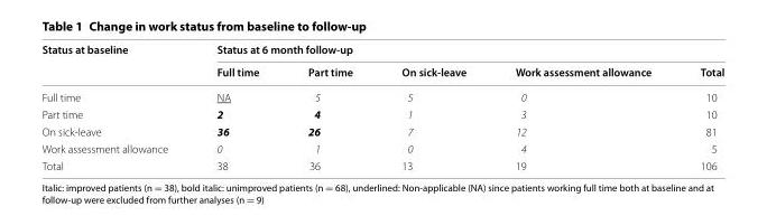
<table><thead><tr><td rowspan="2">Status at baseline</td><td colspan="5">Status at 6 month follow‑up</td></tr><tr><td>Full time</td><td>Part time</td><td>On sick‑leave</td><td>Work assessment allowance</td><td>Total</td></tr></thead><tbody><tr><td>Full time</td><td>NA</td><td>5</td><td>5</td><td>0</td><td>10</td></tr><tr><td>Part time</td><td>2</td><td>4</td><td>1</td><td>3</td><td>10</td></tr><tr><td>On sick-leave</td><td>36</td><td>26</td><td>7</td><td>12</td><td>81</td></tr><tr><td>Work assessment allowance</td><td>0</td><td>1</td><td>0</td><td>4</td><td>5</td></tr><tr><td>Total</td><td>38</td><td>36</td><td>13</td><td>19</td><td>106</td></tr></tbody></table>